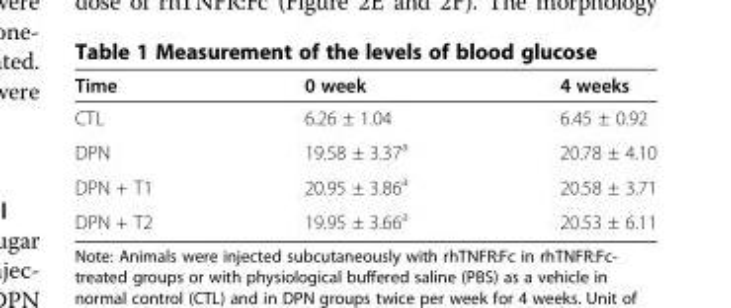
<table><thead><tr><td>Time</td><td>0 week</td><td>4 weeks</td></tr></thead><tbody><tr><td>CTL</td><td>6.26 ± 1.04</td><td>6.45 ± 0.92</td></tr><tr><td>DPN</td><td>19.58 ± 3.37<sup>a</sup></td><td>20.78 ± 4.10</td></tr><tr><td>DPN + T1</td><td>20.95 ± 3.86<sup>a</sup></td><td>20.58 ± 3.71</td></tr><tr><td>DPN + T2</td><td>19.95 ± 3.66<sup>a</sup></td><td>20.53 ± 6.11</td></tr></tbody></table>